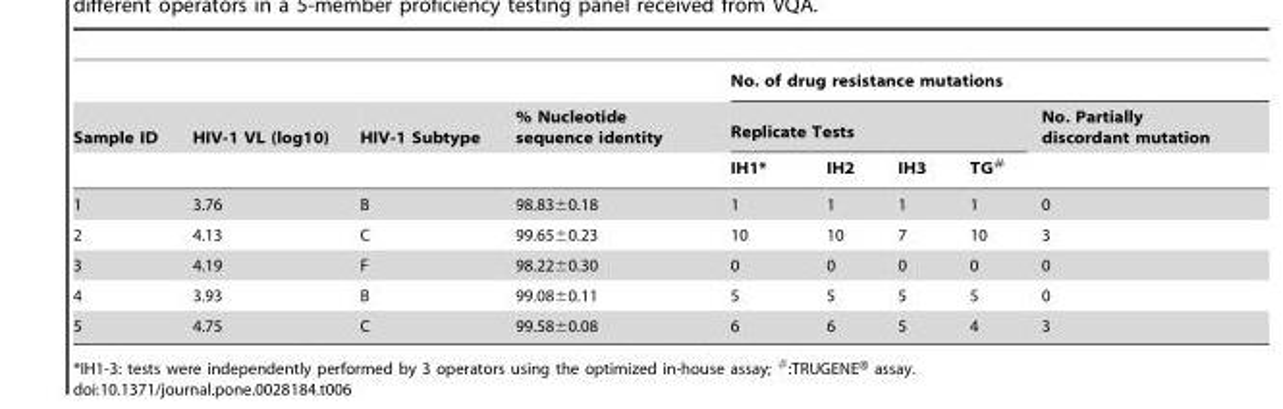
<table><thead><tr><td rowspan="3">Sample ID</td><td rowspan="3">HIV-1 VL (log10)</td><td rowspan="3">HIV-1 Subtype</td><td rowspan="3">% Nucleotide sequence identity</td><td colspan="5">No. of drug resistance mutations</td></tr><tr><td colspan="4">Replicate Tests</td><td rowspan="2">No. Partially discordant mutation</td></tr><tr><td>IH1*</td><td>IH2</td><td>IH3</td><td>TG<sup>#</sup></td></tr></thead><tbody><tr><td>1</td><td>3.76</td><td>B</td><td>98.83±0.18</td><td>1</td><td>1</td><td>1</td><td>1</td><td>0</td></tr><tr><td>2</td><td>4.13</td><td>C</td><td>99.65±0.23</td><td>10</td><td>10</td><td>7</td><td>10</td><td>3</td></tr><tr><td>3</td><td>4.19</td><td>F</td><td>98.22±0.30</td><td>0</td><td>0</td><td>0</td><td>0</td><td>0</td></tr><tr><td>4</td><td>3.93</td><td>B</td><td>99.08±0.11</td><td>5</td><td>5</td><td>5</td><td>5</td><td>0</td></tr><tr><td>5</td><td>4.75</td><td>C</td><td>99.58±0.08</td><td>6</td><td>6</td><td>5</td><td>4</td><td>3</td></tr></tbody></table>